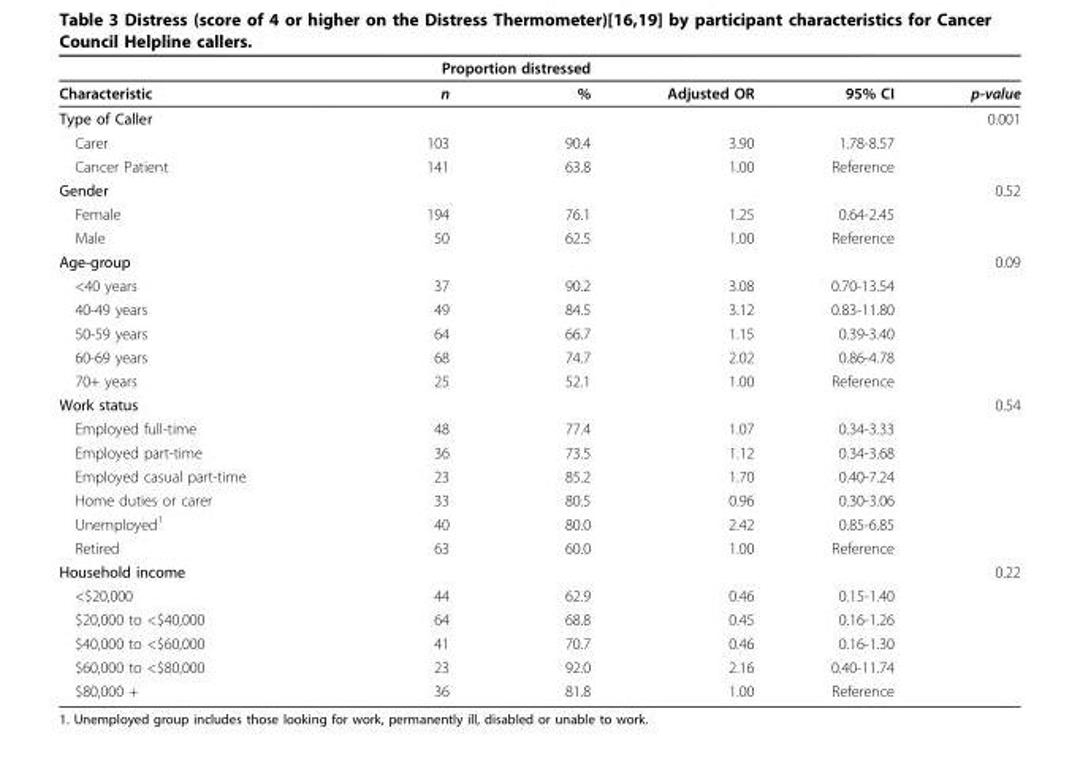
<table><thead><tr><td rowspan="2">Characteristic</td><td colspan="2">Proportion distressed</td><td rowspan="2">Adjusted OR</td><td rowspan="2">95% CI</td><td rowspan="2">p-value</td></tr><tr><td>n</td><td>%</td></tr></thead><tbody><tr><td>Type of Caller</td><td></td><td></td><td></td><td></td><td>0.001</td></tr><tr><td>Carer</td><td>103</td><td>90.4</td><td>3.90</td><td>1.78-8.57</td><td></td></tr><tr><td>Cancer Patient</td><td>141</td><td>63.8</td><td>1.00</td><td>Reference</td><td></td></tr><tr><td>Gender</td><td></td><td></td><td></td><td></td><td>0.52</td></tr><tr><td>Female</td><td>194</td><td>76.1</td><td>1.25</td><td>0.64-2.45</td><td></td></tr><tr><td>Male</td><td>50</td><td>62.5</td><td>1.00</td><td>Reference</td><td></td></tr><tr><td>Age-group</td><td></td><td></td><td></td><td></td><td>0.09</td></tr><tr><td>&lt;40 years</td><td>37</td><td>90.2</td><td>3.08</td><td>0.70-13.54</td><td></td></tr><tr><td>40-49 years</td><td>49</td><td>84.5</td><td>3.12</td><td>0.83-11.80</td><td></td></tr><tr><td>50-59 years</td><td>64</td><td>66.7</td><td>1.15</td><td>0.39-3.40</td><td></td></tr><tr><td>60-69 years</td><td>68</td><td>74.7</td><td>2.02</td><td>0.86-4.78</td><td></td></tr><tr><td>70+ years</td><td>25</td><td>52.1</td><td>1.00</td><td>Reference</td><td></td></tr><tr><td>Work status</td><td></td><td></td><td></td><td></td><td>0.54</td></tr><tr><td>Employed full-time</td><td>48</td><td>77.4</td><td>1.07</td><td>0.34-3.33</td><td></td></tr><tr><td>Employed part-time</td><td>36</td><td>73.5</td><td>1.12</td><td>0.34-3.68</td><td></td></tr><tr><td>Employed casual part-time</td><td>23</td><td>85.2</td><td>1.70</td><td>0.40-7.24</td><td></td></tr><tr><td>Home duties or carer</td><td>33</td><td>80.5</td><td>0.96</td><td>0.30-3.06</td><td></td></tr><tr><td>Unemployed<sup>1</sup></td><td>40</td><td>80.0</td><td>2.42</td><td>0.85-6.85</td><td></td></tr><tr><td>Retired</td><td>63</td><td>60.0</td><td>1.00</td><td>Reference</td><td></td></tr><tr><td>Household income</td><td></td><td></td><td></td><td></td><td>0.22</td></tr><tr><td>&lt;$20,000</td><td>44</td><td>62.9</td><td>0.46</td><td>0.15-1.40</td><td></td></tr><tr><td>$20,000 to &lt;$40,000</td><td>64</td><td>68.8</td><td>0.45</td><td>0.16-1.26</td><td></td></tr><tr><td>$40,000 to &lt;$60,000</td><td>41</td><td>70.7</td><td>0.46</td><td>0.16-1.30</td><td></td></tr><tr><td>$60,000 to &lt;$80,000</td><td>23</td><td>92.0</td><td>2.16</td><td>0.40-11.74</td><td></td></tr><tr><td>$80,000 +</td><td>36</td><td>81.8</td><td>1.00</td><td>Reference</td><td></td></tr></tbody></table>